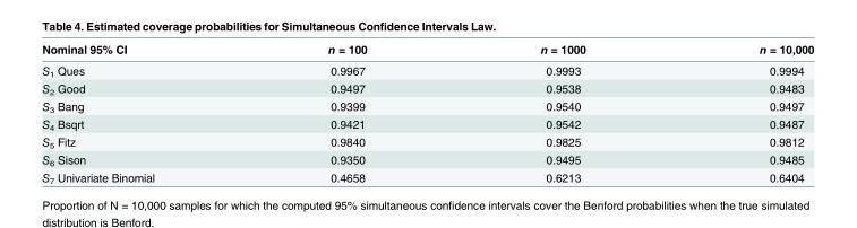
<table><thead><tr><td>Nominal 95% CI</td><td>n = 100</td><td>n = 1000</td><td>n = 10,000</td></tr></thead><tbody><tr><td>S<sub>1</sub> Ques</td><td>0.9967</td><td>0.9993</td><td>0.9994</td></tr><tr><td>S<sub>2</sub> Good</td><td>0.9497</td><td>0.9538</td><td>0.9483</td></tr><tr><td>S<sub>3</sub> Bang</td><td>0.9399</td><td>0.9540</td><td>0.9497</td></tr><tr><td>S<sub>4</sub> Bsqrt</td><td>0.9421</td><td>0.9542</td><td>0.9487</td></tr><tr><td>S<sub>5</sub> Fitz</td><td>0.9840</td><td>0.9825</td><td>0.9812</td></tr><tr><td>S<sub>6</sub> Sison</td><td>0.9350</td><td>0.9495</td><td>0.9485</td></tr><tr><td>S<sub>7</sub> Univariate Binomial</td><td>0.4658</td><td>0.6213</td><td>0.6404</td></tr></tbody></table>